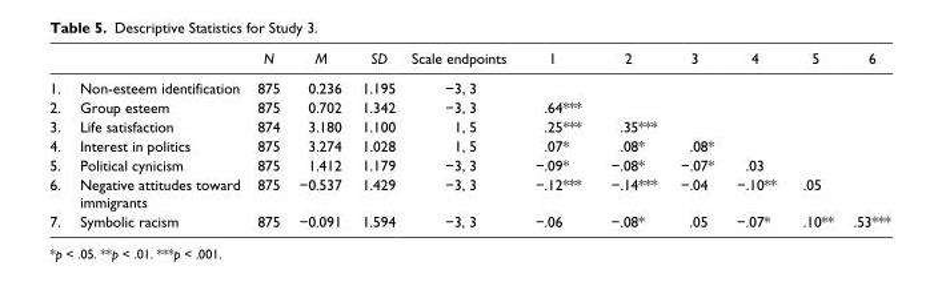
<table><thead><tr><td></td><td>N</td><td>M</td><td>SD</td><td>Scale endpoints</td><td>1</td><td>2</td><td>3</td><td>4</td><td>5</td><td>6</td></tr></thead><tbody><tr><td>1. Non-esteem identification</td><td>875</td><td>0.236</td><td>1.195</td><td>−3, 3</td><td></td><td></td><td></td><td></td><td></td><td></td></tr><tr><td>2. Group esteem</td><td>875</td><td>0.702</td><td>1.342</td><td>−3, 3</td><td>.64***</td><td></td><td></td><td></td><td></td><td></td></tr><tr><td>3. Life satisfaction</td><td>874</td><td>3.180</td><td>1.100</td><td>1, 5</td><td>.25***</td><td>.35***</td><td></td><td></td><td></td><td></td></tr><tr><td>4. Interest in politics</td><td>875</td><td>3.274</td><td>1.028</td><td>1, 5</td><td>.07*</td><td>.08*</td><td>.08*</td><td></td><td></td><td></td></tr><tr><td>5. Political cynicism</td><td>875</td><td>1.412</td><td>1.179</td><td>−3, 3</td><td>−.09*</td><td>−.08*</td><td>−.07*</td><td>.03</td><td></td><td></td></tr><tr><td>6. Negative attitudes toward immigrants</td><td>875</td><td>−0.537</td><td>1.429</td><td>−3, 3</td><td>−.12***</td><td>−.14***</td><td>−.04</td><td>−.10**</td><td>.05</td><td></td></tr><tr><td>7. Symbolic racism</td><td>875</td><td>−0.091</td><td>1.594</td><td>−3, 3</td><td>−.06</td><td>−.08*</td><td>.05</td><td>−.07*</td><td>.10**</td><td>.53***</td></tr></tbody></table>